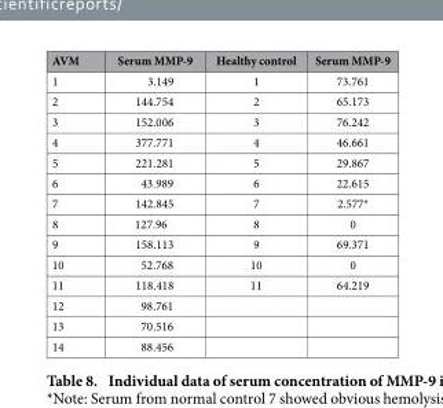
<table><thead><tr><td>AVM</td><td>Serum MMP-9</td><td>Healthy control</td><td>Serum MMP-9</td></tr></thead><tbody><tr><td>1</td><td>3.149</td><td>1</td><td>73.761</td></tr><tr><td>2</td><td>144.754</td><td>2</td><td>65.173</td></tr><tr><td>3</td><td>152.006</td><td>3</td><td>76.242</td></tr><tr><td>4</td><td>377.771</td><td>4</td><td>46.661</td></tr><tr><td>5</td><td>221.281</td><td>5</td><td>29.867</td></tr><tr><td>6</td><td>43.989</td><td>6</td><td>22.615</td></tr><tr><td>7</td><td>142.845</td><td>7</td><td>2.577*</td></tr><tr><td>8</td><td>127.96</td><td>8</td><td>0</td></tr><tr><td>9</td><td>158.113</td><td>9</td><td>69.371</td></tr><tr><td>10</td><td>52.768</td><td>10</td><td>0</td></tr><tr><td>11</td><td>118.418</td><td>11</td><td>64.219</td></tr><tr><td>12</td><td>98.761</td><td></td><td></td></tr><tr><td>13</td><td>70.516</td><td></td><td></td></tr><tr><td>14</td><td>88.456</td><td></td><td></td></tr></tbody></table>